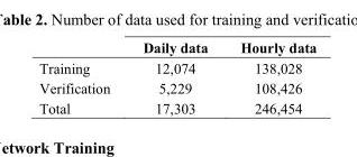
<table><thead><tr><td></td><td>Daily data</td><td>Hourly data</td></tr></thead><tbody><tr><td>Training</td><td>12,074</td><td>138,028</td></tr><tr><td>Verification</td><td>5,229</td><td>108,426</td></tr><tr><td>Total</td><td>17,303</td><td>246,454</td></tr></tbody></table>